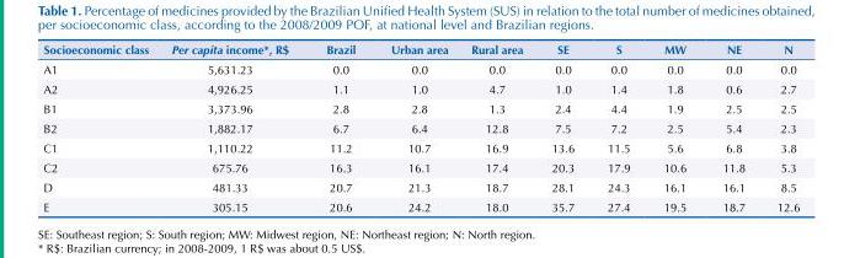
<table><thead><tr><td>Socioeconomic class</td><td>Per capita income*, R$</td><td>Brazil</td><td>Urban area</td><td>Rural area</td><td>SE</td><td>S</td><td>MW</td><td>NE</td><td>N</td></tr></thead><tbody><tr><td>A1</td><td>5,631.23</td><td>0.0</td><td>0.0</td><td>0.0</td><td>0.0</td><td>0.0</td><td>0.0</td><td>0.0</td><td>0.0</td></tr><tr><td>A2</td><td>4,926.25</td><td>1.1</td><td>1.0</td><td>4.7</td><td>1.0</td><td>1.4</td><td>1.8</td><td>0.6</td><td>2.7</td></tr><tr><td>B1</td><td>3,373.96</td><td>2.8</td><td>2.8</td><td>1.3</td><td>2.4</td><td>4.4</td><td>1.9</td><td>2.5</td><td>2.5</td></tr><tr><td>B2</td><td>1,882.17</td><td>6.7</td><td>6.4</td><td>12.8</td><td>7.5</td><td>7.2</td><td>2.5</td><td>5.4</td><td>2.3</td></tr><tr><td>C1</td><td>1,110.22</td><td>11.2</td><td>10.7</td><td>16.9</td><td>13.6</td><td>11.5</td><td>5.6</td><td>6.8</td><td>3.8</td></tr><tr><td>C2</td><td>675.76</td><td>16.3</td><td>16.1</td><td>17.4</td><td>20.3</td><td>17.9</td><td>10.6</td><td>11.8</td><td>5.3</td></tr><tr><td>D</td><td>481.33</td><td>20.7</td><td>21.3</td><td>18.7</td><td>28.1</td><td>24.3</td><td>16.1</td><td>16.1</td><td>8.5</td></tr><tr><td>E</td><td>305.15</td><td>20.6</td><td>24.2</td><td>18.0</td><td>35.7</td><td>27.4</td><td>19.5</td><td>18.7</td><td>12.6</td></tr></tbody></table>